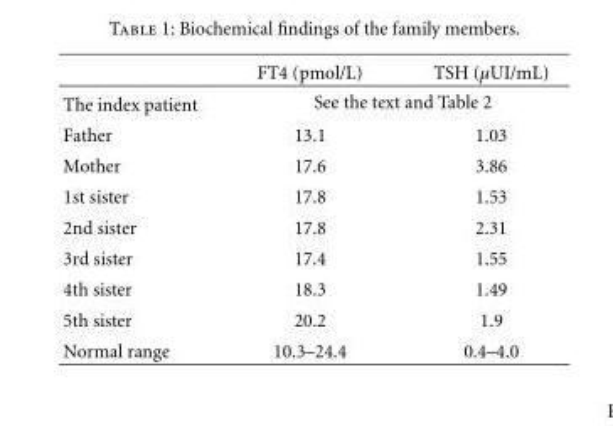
<table><thead><tr><td></td><td>FT4 (pmol/L)</td><td>TSH (μUI/mL)</td></tr></thead><tbody><tr><td>The index patient</td><td colspan="2">See the text and Table 2</td></tr><tr><td>Father</td><td>13.1</td><td>1.03</td></tr><tr><td>Mother</td><td>17.6</td><td>3.86</td></tr><tr><td>1st sister</td><td>17.8</td><td>1.53</td></tr><tr><td>2nd sister</td><td>17.8</td><td>2.31</td></tr><tr><td>3rd sister</td><td>17.4</td><td>1.55</td></tr><tr><td>4th sister</td><td>18.3</td><td>1.49</td></tr><tr><td>5th sister</td><td>20.2</td><td>1.9</td></tr><tr><td>Normal range</td><td>10.3–24.4</td><td>0.4–4.0</td></tr></tbody></table>